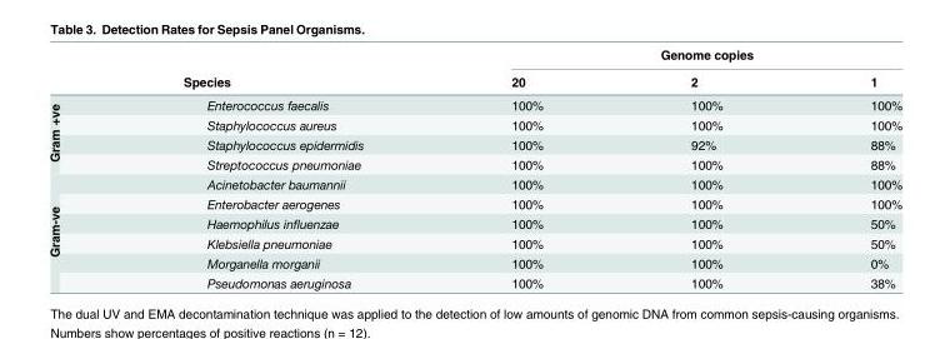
<table><thead><tr><td></td><td></td><td colspan="3">Genome copies</td></tr><tr><td colspan="2">Species</td><td>20</td><td>2</td><td>1</td></tr></thead><tbody><tr><td rowspan="4">Gram +ve</td><td>Enterococcus faecalis</td><td>100%</td><td>100%</td><td>100%</td></tr><tr><td>Staphylococcus aureus</td><td>100%</td><td>100%</td><td>100%</td></tr><tr><td>Staphylococcus epidermidis</td><td>100%</td><td>92%</td><td>88%</td></tr><tr><td>Streptococcus pneumoniae</td><td>100%</td><td>100%</td><td>88%</td></tr><tr><td rowspan="6">Gram-ve</td><td>Acinetobacter baumannii</td><td>100%</td><td>100%</td><td>100%</td></tr><tr><td>Enterobacter aerogenes</td><td>100%</td><td>100%</td><td>100%</td></tr><tr><td>Haemophilus influenzae</td><td>100%</td><td>100%</td><td>50%</td></tr><tr><td>Klebsiella pneumoniae</td><td>100%</td><td>100%</td><td>50%</td></tr><tr><td>Morganella morganii</td><td>100%</td><td>100%</td><td>0%</td></tr><tr><td>Pseudomonas aeruginosa</td><td>100%</td><td>100%</td><td>38%</td></tr></tbody></table>